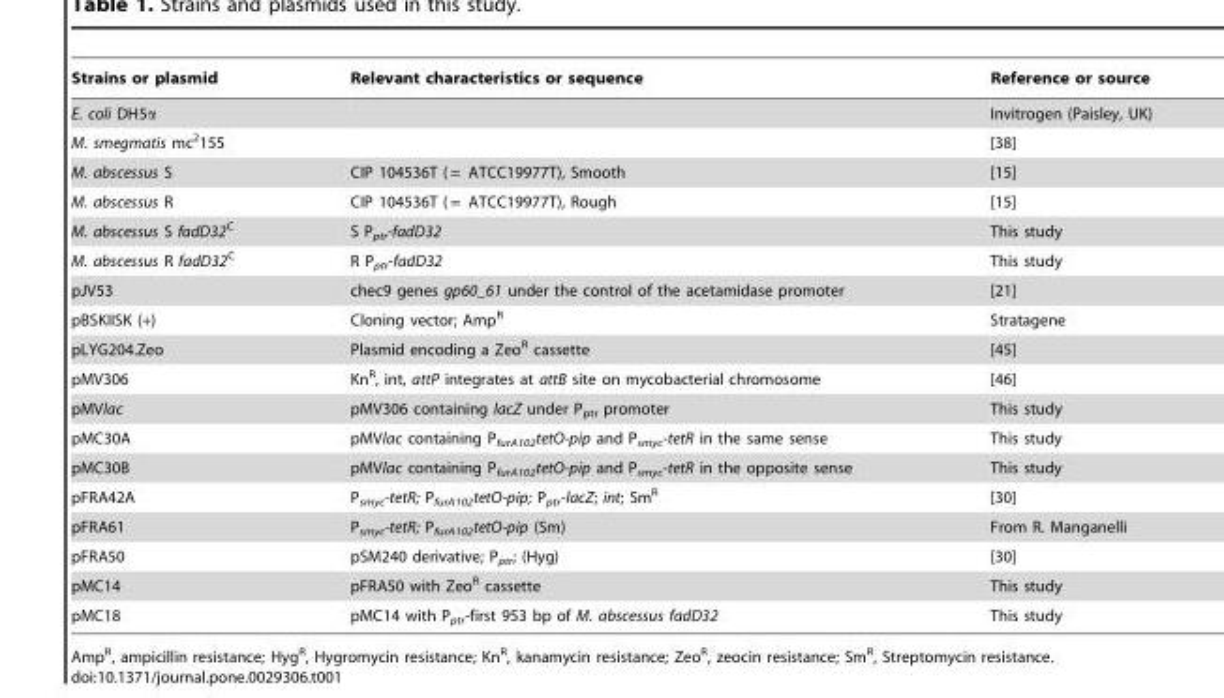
<table><thead><tr><td>Strains or plasmid</td><td>Relevant characteristics or sequence</td><td>Reference or source</td></tr></thead><tbody><tr><td>E. coli DH5α</td><td></td><td>Invitrogen (Paisley, UK)</td></tr><tr><td>M. smegmatis mc<sup>2</sup>155</td><td></td><td>[38]</td></tr><tr><td>M. abscessus S</td><td>CIP 104536T ( = ATCC19977T), Smooth</td><td>[15]</td></tr><tr><td>M. abscessus R</td><td>CIP 104536T ( = ATCC19977T), Rough</td><td>[15]</td></tr><tr><td>M. abscessus S fadD32<sup>C</sup></td><td>S P<sub>ptr</sub>-fadD32</td><td>This study</td></tr><tr><td>M. abscessus R fadD32<sup>C</sup></td><td>R P<sub>ptr</sub>-fadD32</td><td>This study</td></tr><tr><td>pJV53</td><td>chec9 genes gp60_61 under the control of the acetamidase promoter</td><td>[21]</td></tr><tr><td>pBSKIISK (+)</td><td>Cloning vector; Amp<sup>R</sup></td><td>Stratagene</td></tr><tr><td>pLYG204.Zeo</td><td>Plasmid encoding a Zeo<sup>R</sup> cassette</td><td>[45]</td></tr><tr><td>pMV306</td><td>Kn<sup>R</sup>, int, attP integrates at attB site on mycobacterial chromosome</td><td>[46]</td></tr><tr><td>pMVlac</td><td>pMV306 containing lacZ under P<sub>ptr</sub> promoter</td><td>This study</td></tr><tr><td>pMC30A</td><td>pMVlac containing P<sub>furA102</sub>tetO-pip and P<sub>smyc</sub>-tetR in the same sense</td><td>This study</td></tr><tr><td>pMC30B</td><td>pMVlac containing P<sub>furA102</sub>tetO-pip and P<sub>smyc</sub>-tetR in the opposite sense</td><td>This study</td></tr><tr><td>pFRA42A</td><td>P<sub>smyc</sub>-tetR; P<sub>furA102</sub>tetO-pip; P<sub>ptr</sub>-lacZ; int; Sm<sup>R</sup></td><td>[30]</td></tr><tr><td>pFRA61</td><td>P<sub>smyc</sub>-tetR; P<sub>furA102</sub>tetO-pip (Sm)</td><td>From R. Manganelli</td></tr><tr><td>pFRA50</td><td>pSM240 derivative; P<sub>ptr</sub>; (Hyg)</td><td>[30]</td></tr><tr><td>pMC14</td><td>pFRA50 with Zeo<sup>R</sup> cassette</td><td>This study</td></tr><tr><td>pMC18</td><td>pMC14 with P<sub>ptr</sub>-first 953 bp of M. abscessus fadD32</td><td>This study</td></tr></tbody></table>